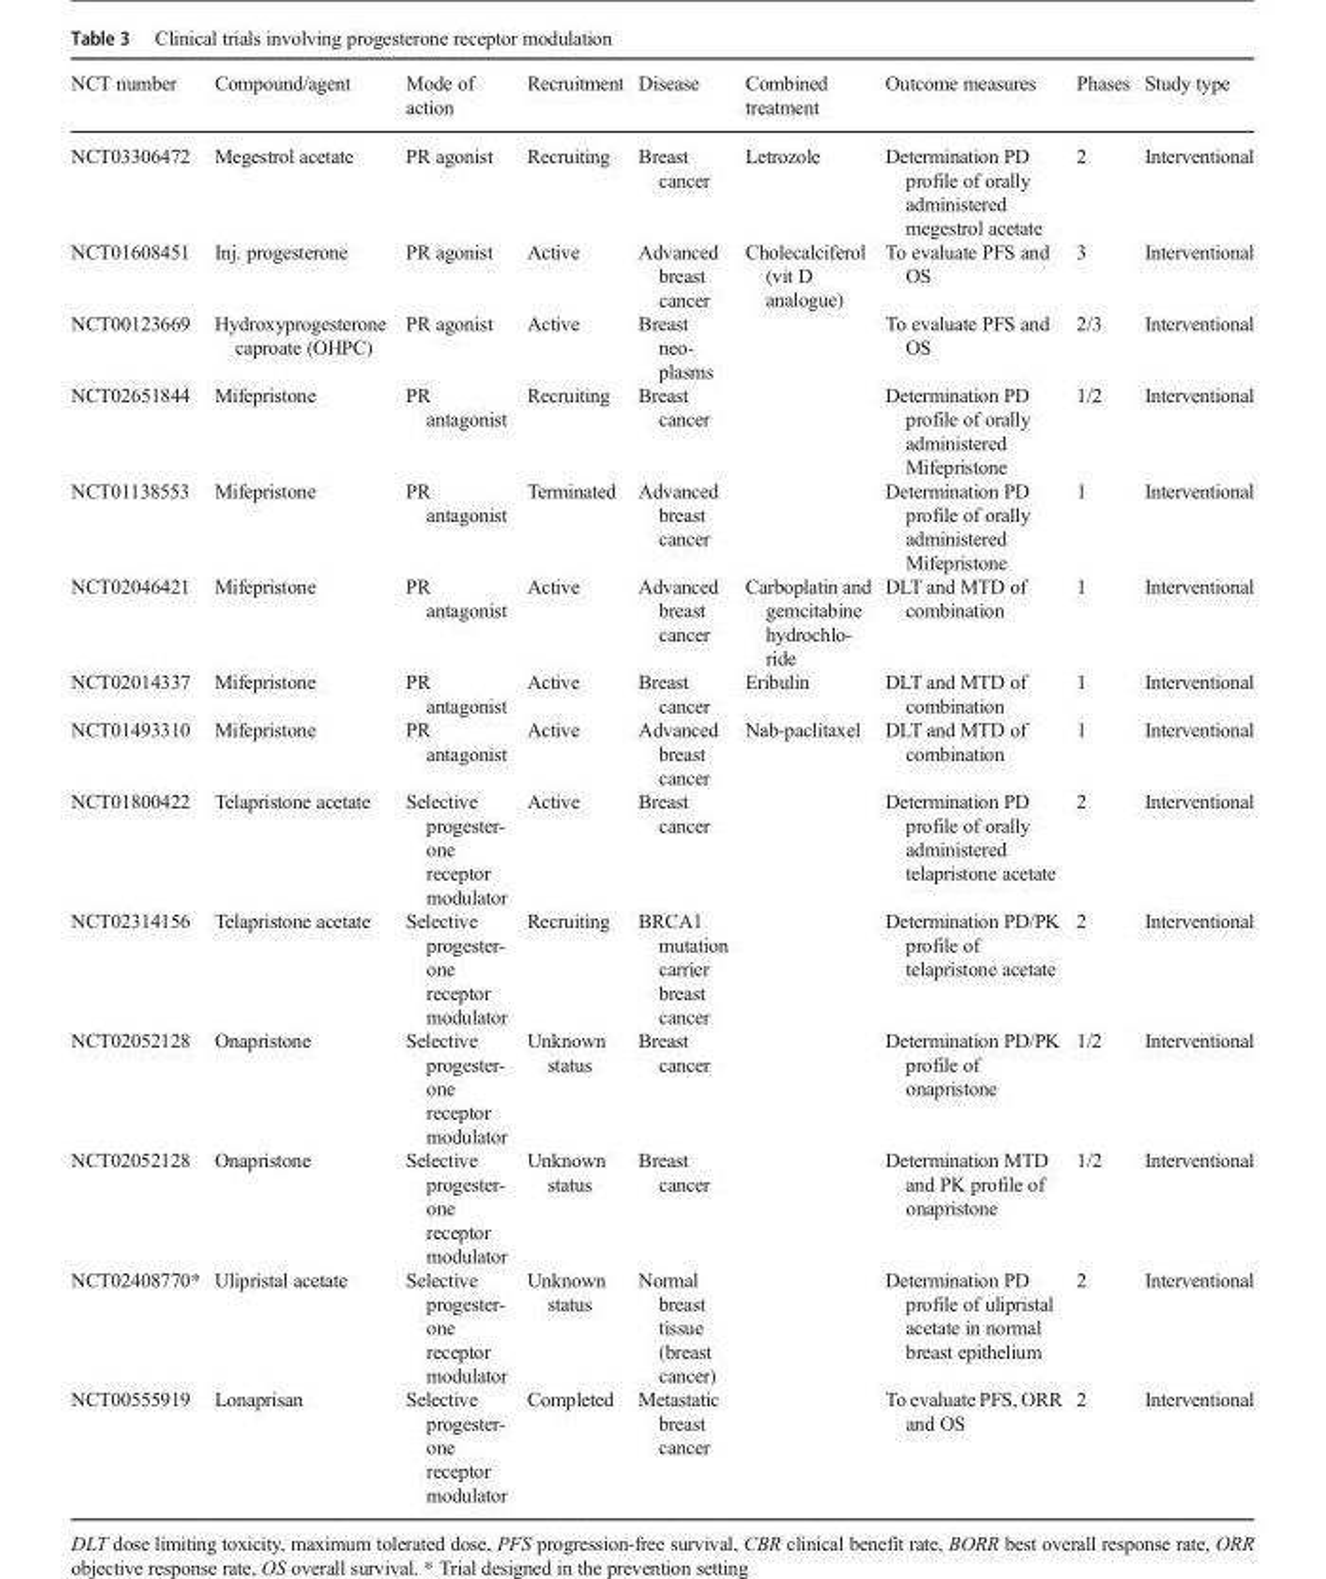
<table><thead><tr><td>NCT number</td><td>Compound/agent</td><td>Mode of action</td><td>Recruitment</td><td>Disease</td><td>Combined treatment</td><td>Outcome measures</td><td>Phases</td><td>Study type</td></tr></thead><tbody><tr><td>NCT03306472</td><td>Megestrol acetate</td><td>PR agonist</td><td>Recruiting</td><td>Breast cancer</td><td>Letrozole</td><td>Determination PD profile of orally administered megestrol acetate</td><td>2</td><td>Interventional</td></tr><tr><td>NCT01608451</td><td>Inj. progesterone</td><td>PR agonist</td><td>Active</td><td>Advanced breast cancer</td><td>Cholecalciferol (vit D analogue)</td><td>To evaluate PFS and OS</td><td>3</td><td>Interventional</td></tr><tr><td>NCT00123669</td><td>Hydroxyprogesterone caproate (OHPC)</td><td>PR agonist</td><td>Active</td><td>Breast neo- plasms</td><td></td><td>To evaluate PFS and OS</td><td>2/3</td><td>Interventional</td></tr><tr><td>NCT02651844</td><td>Mifepristone</td><td>PR antagonist</td><td>Recruiting</td><td>Breast cancer</td><td></td><td>Determination PD profile of orally administered Mifepristone</td><td>1/2</td><td>Interventional</td></tr><tr><td>NCT01138553</td><td>Mifepristone</td><td>PR antagonist</td><td>Terminated</td><td>Advanced breast cancer</td><td></td><td>Determination PD profile of orally administered Mifepristone</td><td>1</td><td>Interventional</td></tr><tr><td>NCT02046421</td><td>Mifepristone</td><td>PR antagonist</td><td>Active</td><td>Advanced breast cancer</td><td>Carboplatin and gemcitabine hydrochlo- ride</td><td>DLT and MTD of combination</td><td>1</td><td>Interventional</td></tr><tr><td>NCT02014337</td><td>Mifepristone</td><td>PR antagonist</td><td>Active</td><td>Breast cancer</td><td>Eribulin</td><td>DLT and MTD of combination</td><td>1</td><td>Interventional</td></tr><tr><td>NCT01493310</td><td>Mifepristone</td><td>PR antagonist</td><td>Active</td><td>Advanced breast cancer</td><td>Nab-paclitaxel</td><td>DLT and MTD of combination</td><td>1</td><td>Interventional</td></tr><tr><td>NCT01800422</td><td>Telapristone acetate</td><td>Selective progester- one receptor modulator</td><td>Active</td><td>Breast cancer</td><td></td><td>Determination PD profile of orally administered telapristone acetate</td><td>2</td><td>Interventional</td></tr><tr><td>NCT02314156</td><td>Telapristone acetate</td><td>Selective progester- one receptor modulator</td><td>Recruiting</td><td>BRCA1 mutation carrier breast cancer</td><td></td><td>Determination PD/PK profile of telapristone acetate</td><td>2</td><td>Interventional</td></tr><tr><td>NCT02052128</td><td>Onapristone</td><td>Selective progester- one receptor modulator</td><td>Unknown status</td><td>Breast cancer</td><td></td><td>Determination PD/PK profile of onapristone</td><td>1/2</td><td>Interventional</td></tr><tr><td>NCT02052128</td><td>Onapristone</td><td>Selective progester- one receptor modulator</td><td>Unknown status</td><td>Breast cancer</td><td></td><td>Determination MTD and PK profile of onapristone</td><td>1/2</td><td>Interventional</td></tr><tr><td>NCT02408770*</td><td>Ulipristal acetate</td><td>Selective progester- one receptor modulator</td><td>Unknown status</td><td>Normal breast tissue (breast cancer)</td><td></td><td>Determination PD profile of ulipristal acetate in normal breast epithelium</td><td>2</td><td>Interventional</td></tr><tr><td>NCT00555919</td><td>Lonaprisan</td><td>Selective progester- one receptor modulator</td><td>Completed</td><td>Metastatic breast cancer</td><td></td><td>To evaluate PFS, ORR and OS</td><td>2</td><td>Interventional</td></tr></tbody></table>